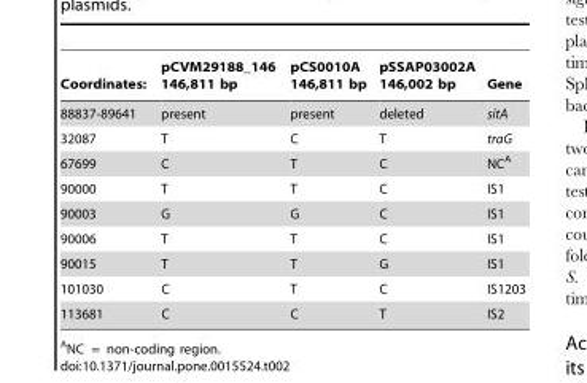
<table><thead><tr><td>Coordinates:</td><td>pCVM29188_146 146,811 bp</td><td>pCS0010A 146,811 bp</td><td>pSSAP03002A 146,002 bp</td><td>Gene</td></tr></thead><tbody><tr><td>88837-89641</td><td>present</td><td>present</td><td>deleted</td><td>sitA</td></tr><tr><td>32087</td><td>T</td><td>C</td><td>T</td><td>traG</td></tr><tr><td>67699</td><td>C</td><td>T</td><td>C</td><td>NC<sup>A</sup></td></tr><tr><td>90000</td><td>T</td><td>T</td><td>C</td><td>IS1</td></tr><tr><td>90003</td><td>G</td><td>G</td><td>C</td><td>IS1</td></tr><tr><td>90006</td><td>T</td><td>T</td><td>C</td><td>IS1</td></tr><tr><td>90015</td><td>T</td><td>T</td><td>G</td><td>IS1</td></tr><tr><td>101030</td><td>C</td><td>T</td><td>C</td><td>IS1203</td></tr><tr><td>113681</td><td>C</td><td>C</td><td>T</td><td>IS2</td></tr></tbody></table>